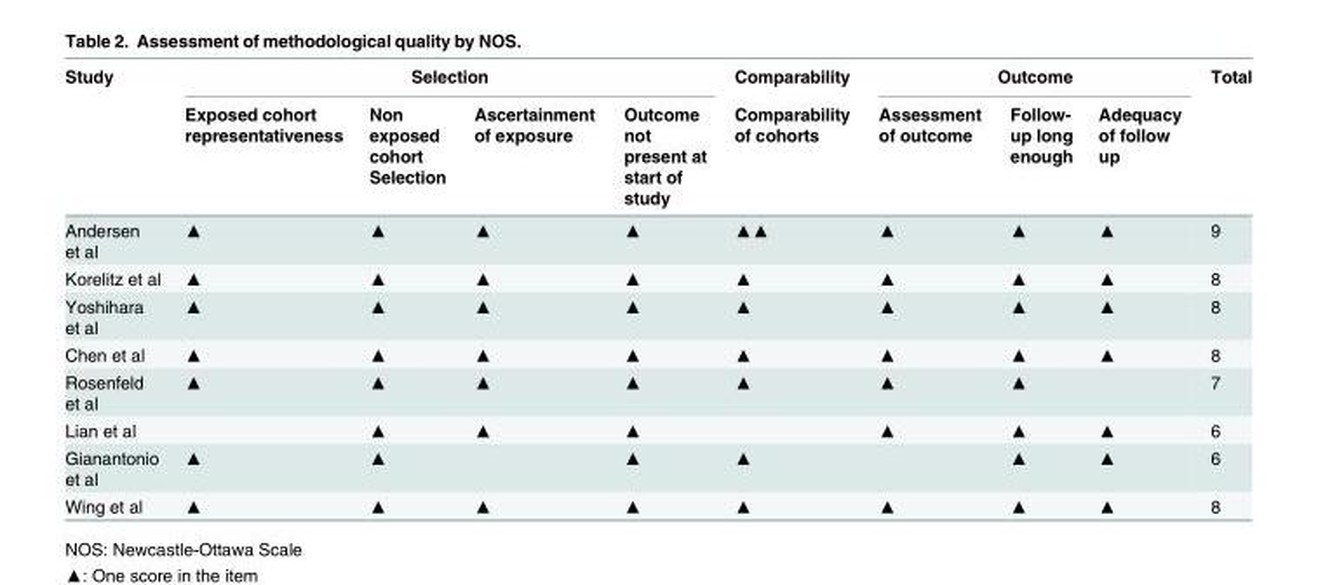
<table><thead><tr><td rowspan="2">Study</td><td colspan="4">Selection</td><td rowspan="2">Comparability Comparability of cohorts</td><td colspan="3">Outcome</td><td rowspan="2">Total</td></tr><tr><td>Exposed cohort representativeness</td><td>Non exposed cohort Selection</td><td>Ascertainment of exposure</td><td>Outcome not present at start of study</td><td>Assessment of outcome</td><td>Follow- up long enough</td><td>Adequacy of follow up</td></tr></thead><tbody><tr><td>Andersen et al</td><td>▲</td><td>▲</td><td>▲</td><td>▲</td><td>▲▲</td><td>▲</td><td>▲</td><td>▲</td><td>9</td></tr><tr><td>Korelitz et al</td><td>▲</td><td>▲</td><td>▲</td><td>▲</td><td>▲</td><td>▲</td><td>▲</td><td>▲</td><td>8</td></tr><tr><td>Yoshihara et al</td><td>▲</td><td>▲</td><td>▲</td><td>▲</td><td>▲</td><td>▲</td><td>▲</td><td>▲</td><td>8</td></tr><tr><td>Chen et al</td><td>▲</td><td>▲</td><td>▲</td><td>▲</td><td>▲</td><td>▲</td><td>▲</td><td>▲</td><td>8</td></tr><tr><td>Rosenfeld et al</td><td>▲</td><td>▲</td><td>▲</td><td>▲</td><td>▲</td><td>▲</td><td>▲</td><td></td><td>7</td></tr><tr><td>Lian et al</td><td></td><td>▲</td><td>▲</td><td>▲</td><td></td><td>▲</td><td>▲</td><td>▲</td><td>6</td></tr><tr><td>Gianantonio et al</td><td>▲</td><td>▲</td><td></td><td>▲</td><td>▲</td><td></td><td>▲</td><td>▲</td><td>6</td></tr><tr><td>Wing et al</td><td>▲</td><td>▲</td><td>▲</td><td>▲</td><td>▲</td><td>▲</td><td>▲</td><td>▲</td><td>8</td></tr></tbody></table>